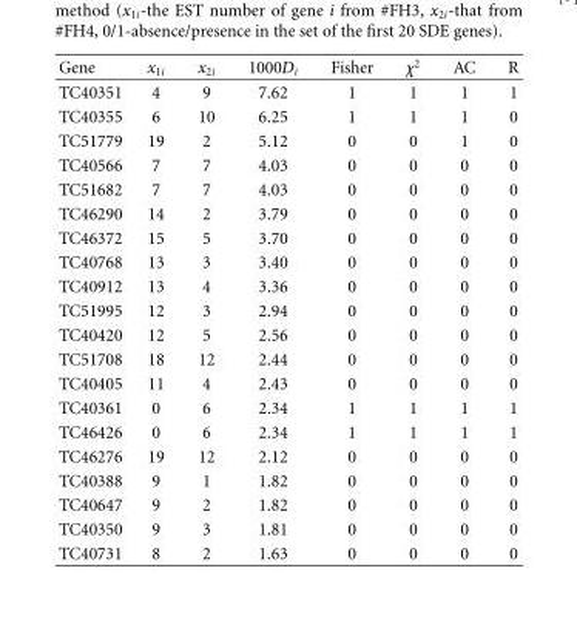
<table><thead><tr><td>Gene</td><td>x<sub>1i</sub></td><td>x<sub>2i</sub></td><td>1000D<sub>i</sub></td><td>Fisher</td><td>χ<sup>2</sup></td><td>AC</td><td>R</td></tr></thead><tbody><tr><td>TC40351</td><td>4</td><td>9</td><td>7.62</td><td>1</td><td>1</td><td>1</td><td>1</td></tr><tr><td>TC40355</td><td>6</td><td>10</td><td>6.25</td><td>1</td><td>1</td><td>1</td><td>0</td></tr><tr><td>TC51779</td><td>19</td><td>2</td><td>5.12</td><td>0</td><td>0</td><td>1</td><td>0</td></tr><tr><td>TC40566</td><td>7</td><td>7</td><td>4.03</td><td>0</td><td>0</td><td>0</td><td>0</td></tr><tr><td>TC51682</td><td>7</td><td>7</td><td>4.03</td><td>0</td><td>0</td><td>0</td><td>0</td></tr><tr><td>TC46290</td><td>14</td><td>2</td><td>3.79</td><td>0</td><td>0</td><td>0</td><td>0</td></tr><tr><td>TC46372</td><td>15</td><td>5</td><td>3.70</td><td>0</td><td>0</td><td>0</td><td>0</td></tr><tr><td>TC40768</td><td>13</td><td>3</td><td>3.40</td><td>0</td><td>0</td><td>0</td><td>0</td></tr><tr><td>TC40912</td><td>13</td><td>4</td><td>3.36</td><td>0</td><td>0</td><td>0</td><td>0</td></tr><tr><td>TC51995</td><td>12</td><td>3</td><td>2.94</td><td>0</td><td>0</td><td>0</td><td>0</td></tr><tr><td>TC40420</td><td>12</td><td>5</td><td>2.56</td><td>0</td><td>0</td><td>0</td><td>0</td></tr><tr><td>TC51708</td><td>18</td><td>12</td><td>2.44</td><td>0</td><td>0</td><td>0</td><td>0</td></tr><tr><td>TC40405</td><td>11</td><td>4</td><td>2.43</td><td>0</td><td>0</td><td>0</td><td>0</td></tr><tr><td>TC40361</td><td>0</td><td>6</td><td>2.34</td><td>1</td><td>1</td><td>1</td><td>1</td></tr><tr><td>TC46426</td><td>0</td><td>6</td><td>2.34</td><td>1</td><td>1</td><td>1</td><td>1</td></tr><tr><td>TC46276</td><td>19</td><td>12</td><td>2.12</td><td>0</td><td>0</td><td>0</td><td>0</td></tr><tr><td>TC40388</td><td>9</td><td>1</td><td>1.82</td><td>0</td><td>0</td><td>0</td><td>0</td></tr><tr><td>TC40647</td><td>9</td><td>2</td><td>1.82</td><td>0</td><td>0</td><td>0</td><td>0</td></tr><tr><td>TC40350</td><td>9</td><td>3</td><td>1.81</td><td>0</td><td>0</td><td>0</td><td>0</td></tr><tr><td>TC40731</td><td>8</td><td>2</td><td>1.63</td><td>0</td><td>0</td><td>0</td><td>0</td></tr></tbody></table>